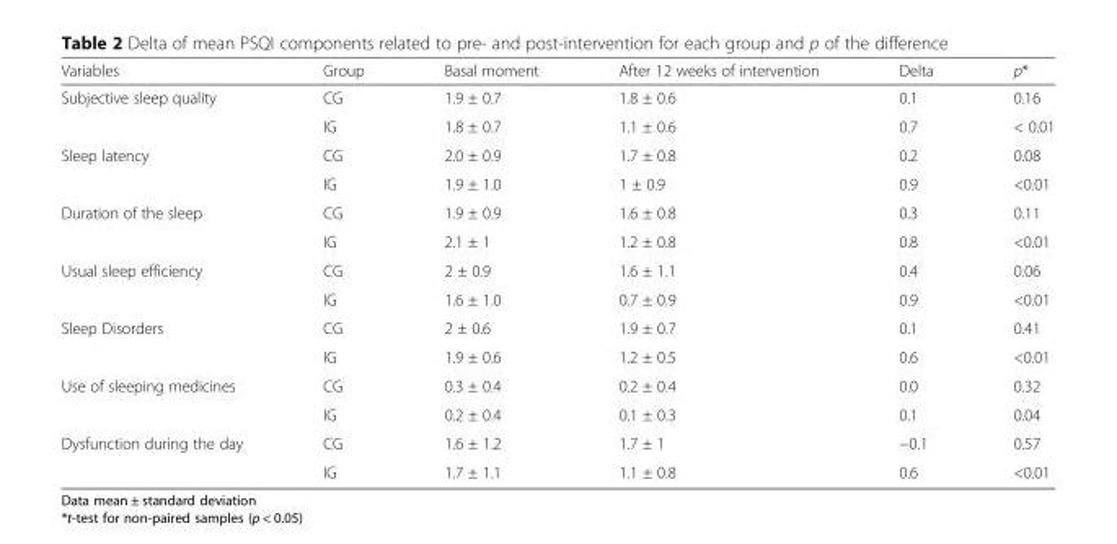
<table><thead><tr><td>Variables</td><td>Group</td><td>Basal moment</td><td>After 12 weeks of intervention</td><td>Delta</td><td>p*</td></tr></thead><tbody><tr><td rowspan="2">Subjective sleep quality</td><td>CG</td><td>1.9 ± 0.7</td><td>1.8 ± 0.6</td><td>0.1</td><td>0.16</td></tr><tr><td>IG</td><td>1.8 ± 0.7</td><td>1.1 ± 0.6</td><td>0.7</td><td>&lt; 0.01</td></tr><tr><td rowspan="2">Sleep latency</td><td>CG</td><td>2.0 ± 0.9</td><td>1.7 ± 0.8</td><td>0.2</td><td>0.08</td></tr><tr><td>IG</td><td>1.9 ± 1.0</td><td>1 ± 0.9</td><td>0.9</td><td>&lt;0.01</td></tr><tr><td rowspan="2">Duration of the sleep</td><td>CG</td><td>1.9 ± 0.9</td><td>1.6 ± 0.8</td><td>0.3</td><td>0.11</td></tr><tr><td>IG</td><td>2.1 ± 1</td><td>1.2 ± 0.8</td><td>0.8</td><td>&lt;0.01</td></tr><tr><td rowspan="2">Usual sleep efficiency</td><td>CG</td><td>2 ± 0.9</td><td>1.6 ± 1.1</td><td>0.4</td><td>0.06</td></tr><tr><td>IG</td><td>1.6 ± 1.0</td><td>0.7 ± 0.9</td><td>0.9</td><td>&lt;0.01</td></tr><tr><td rowspan="2">Sleep Disorders</td><td>CG</td><td>2 ± 0.6</td><td>1.9 ± 0.7</td><td>0.1</td><td>0.41</td></tr><tr><td>IG</td><td>1.9 ± 0.6</td><td>1.2 ± 0.5</td><td>0.6</td><td>&lt;0.01</td></tr><tr><td rowspan="2">Use of sleeping medicines</td><td>CG</td><td>0.3 ± 0.4</td><td>0.2 ± 0.4</td><td>0.0</td><td>0.32</td></tr><tr><td>IG</td><td>0.2 ± 0.4</td><td>0.1 ± 0.3</td><td>0.1</td><td>0.04</td></tr><tr><td rowspan="2">Dysfunction during the day</td><td>CG</td><td>1.6 ± 1.2</td><td>1.7 ± 1</td><td>−0.1</td><td>0.57</td></tr><tr><td>IG</td><td>1.7 ± 1.1</td><td>1.1 ± 0.8</td><td>0.6</td><td>&lt;0.01</td></tr></tbody></table>